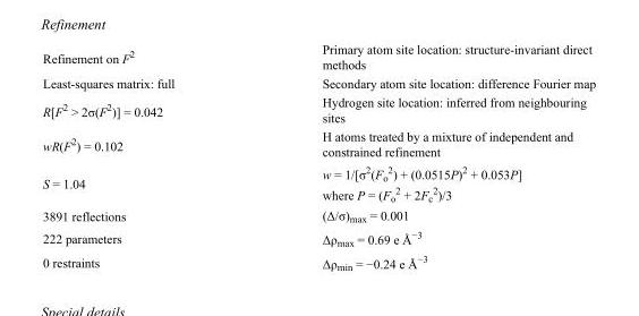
<table><tbody><tr><td>Refinement on F<sup>2</sup></td><td>Primary atom site location: structure-invariant direct methods</td></tr><tr><td>Least-squares matrix: full</td><td>Secondary atom site location: difference Fourier map</td></tr><tr><td>R[F<sup>2</sup> &gt; 2σ(F<sup>2</sup>)] = 0.042</td><td>Hydrogen site location: inferred from neighbouring sites</td></tr><tr><td>wR(F<sup>2</sup>) = 0.102</td><td>H atoms treated by a mixture of independent and constrained refinement</td></tr><tr><td>S = 1.04</td><td>w = 1/[σ<sup>2</sup>(F<sub>o</sub> <sup>2</sup>) + (0.0515P)<sup>2</sup> + 0.053P] where P = (F<sub>o</sub> <sup>2</sup> + 2F<sub>c</sub> <sup>2</sup>)/3</td></tr><tr><td>3891 reflections</td><td>(Δ/σ)<sub>max</sub> = 0.001</td></tr><tr><td>222 parameters</td><td>Δρ<sub>max</sub> = 0.69 e Å<sup>−3</sup></td></tr><tr><td>0 restraints</td><td>Δρ<sub>min</sub> = −0.24 e Å<sup>−3</sup></td></tr></tbody></table>